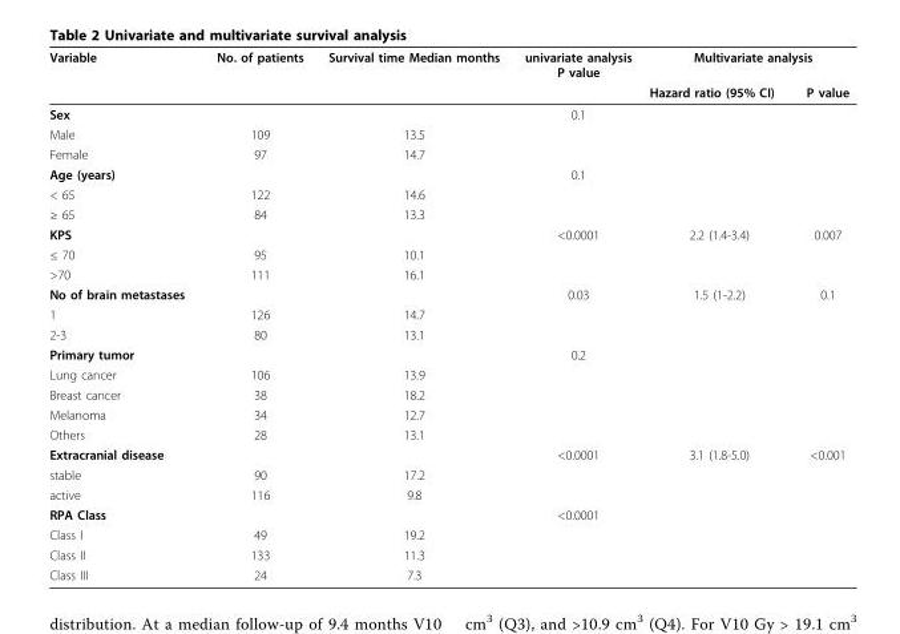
<table><thead><tr><td rowspan="2">Variable</td><td rowspan="2">No. of patients</td><td rowspan="2">Survival time Median months</td><td rowspan="2">univariate analysis P value</td><td colspan="2">Multivariate analysis</td></tr><tr><td>Hazard ratio (95% CI)</td><td>P value</td></tr></thead><tbody><tr><td>Sex</td><td></td><td></td><td>0.1</td><td></td><td></td></tr><tr><td>Male</td><td>109</td><td>13.5</td><td></td><td></td><td></td></tr><tr><td>Female</td><td>97</td><td>14.7</td><td></td><td></td><td></td></tr><tr><td>Age (years)</td><td></td><td></td><td>0.1</td><td></td><td></td></tr><tr><td>&lt; 65</td><td>122</td><td>14.6</td><td></td><td></td><td></td></tr><tr><td>≥ 65</td><td>84</td><td>13.3</td><td></td><td></td><td></td></tr><tr><td>KPS</td><td></td><td></td><td>&lt;0.0001</td><td>2.2 (1.4-3.4)</td><td>0.007</td></tr><tr><td>≤ 70</td><td>95</td><td>10.1</td><td></td><td></td><td></td></tr><tr><td>&gt;70</td><td>111</td><td>16.1</td><td></td><td></td><td></td></tr><tr><td>No of brain metastases</td><td></td><td></td><td>0.03</td><td>1.5 (1-2.2)</td><td>0.1</td></tr><tr><td>1</td><td>126</td><td>14.7</td><td></td><td></td><td></td></tr><tr><td>2-3</td><td>80</td><td>13.1</td><td></td><td></td><td></td></tr><tr><td>Primary tumor</td><td></td><td></td><td>0.2</td><td></td><td></td></tr><tr><td>Lung cancer</td><td>106</td><td>13.9</td><td></td><td></td><td></td></tr><tr><td>Breast cancer</td><td>38</td><td>18.2</td><td></td><td></td><td></td></tr><tr><td>Melanoma</td><td>34</td><td>12.7</td><td></td><td></td><td></td></tr><tr><td>Others</td><td>28</td><td>13.1</td><td></td><td></td><td></td></tr><tr><td>Extracranial disease</td><td></td><td></td><td>&lt;0.0001</td><td>3.1 (1.8-5.0)</td><td>&lt;0.001</td></tr><tr><td>stable</td><td>90</td><td>17.2</td><td></td><td></td><td></td></tr><tr><td>active</td><td>116</td><td>9.8</td><td></td><td></td><td></td></tr><tr><td>RPA Class</td><td></td><td></td><td>&lt;0.0001</td><td></td><td></td></tr><tr><td>Class I</td><td>49</td><td>19.2</td><td></td><td></td><td></td></tr><tr><td>Class II</td><td>133</td><td>11.3</td><td></td><td></td><td></td></tr><tr><td>Class III</td><td>24</td><td>7.3</td><td></td><td></td><td></td></tr></tbody></table>